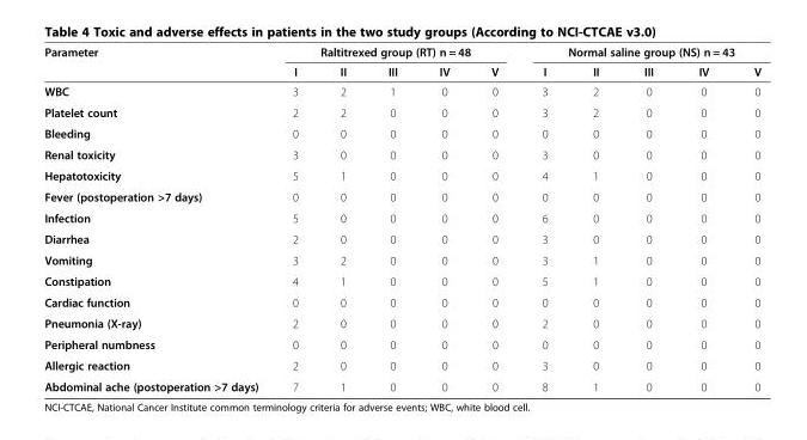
<table><thead><tr><td rowspan="2">Parameter</td><td colspan="5">Raltitrexed group (RT) n = 48</td><td colspan="5">Normal saline group (NS) n = 43</td></tr><tr><td>I</td><td>II</td><td>III</td><td>IV</td><td>V</td><td>I</td><td>II</td><td>III</td><td>IV</td><td>V</td></tr></thead><tbody><tr><td>WBC</td><td>3</td><td>2</td><td>1</td><td>0</td><td>0</td><td>3</td><td>2</td><td>0</td><td>0</td><td>0</td></tr><tr><td>Platelet count</td><td>2</td><td>2</td><td>0</td><td>0</td><td>0</td><td>3</td><td>2</td><td>0</td><td>0</td><td>0</td></tr><tr><td>Bleeding</td><td>0</td><td>0</td><td>0</td><td>0</td><td>0</td><td>0</td><td>0</td><td>0</td><td>0</td><td>0</td></tr><tr><td>Renal toxicity</td><td>3</td><td>0</td><td>0</td><td>0</td><td>0</td><td>3</td><td>0</td><td>0</td><td>0</td><td>0</td></tr><tr><td>Hepatotoxicity</td><td>5</td><td>1</td><td>0</td><td>0</td><td>0</td><td>4</td><td>1</td><td>0</td><td>0</td><td>0</td></tr><tr><td>Fever (postoperation &gt;7 days)</td><td>0</td><td>0</td><td>0</td><td>0</td><td>0</td><td>0</td><td>0</td><td>0</td><td>0</td><td>0</td></tr><tr><td>Infection</td><td>5</td><td>0</td><td>0</td><td>0</td><td>0</td><td>6</td><td>0</td><td>0</td><td>0</td><td>0</td></tr><tr><td>Diarrhea</td><td>2</td><td>0</td><td>0</td><td>0</td><td>0</td><td>3</td><td>0</td><td>0</td><td>0</td><td>0</td></tr><tr><td>Vomiting</td><td>3</td><td>2</td><td>0</td><td>0</td><td>0</td><td>3</td><td>1</td><td>0</td><td>0</td><td>0</td></tr><tr><td>Constipation</td><td>4</td><td>1</td><td>0</td><td>0</td><td>0</td><td>5</td><td>1</td><td>0</td><td>0</td><td>0</td></tr><tr><td>Cardiac function</td><td>0</td><td>0</td><td>0</td><td>0</td><td>0</td><td>0</td><td>0</td><td>0</td><td>0</td><td>0</td></tr><tr><td>Pneumonia (X-ray)</td><td>2</td><td>0</td><td>0</td><td>0</td><td>0</td><td>2</td><td>0</td><td>0</td><td>0</td><td>0</td></tr><tr><td>Peripheral numbness</td><td>0</td><td>0</td><td>0</td><td>0</td><td>0</td><td>0</td><td>0</td><td>0</td><td>0</td><td>0</td></tr><tr><td>Allergic reaction</td><td>2</td><td>0</td><td>0</td><td>0</td><td>0</td><td>3</td><td>0</td><td>0</td><td>0</td><td>0</td></tr><tr><td>Abdominal ache (postoperation &gt;7 days)</td><td>7</td><td>1</td><td>0</td><td>0</td><td>0</td><td>8</td><td>1</td><td>0</td><td>0</td><td>0</td></tr></tbody></table>